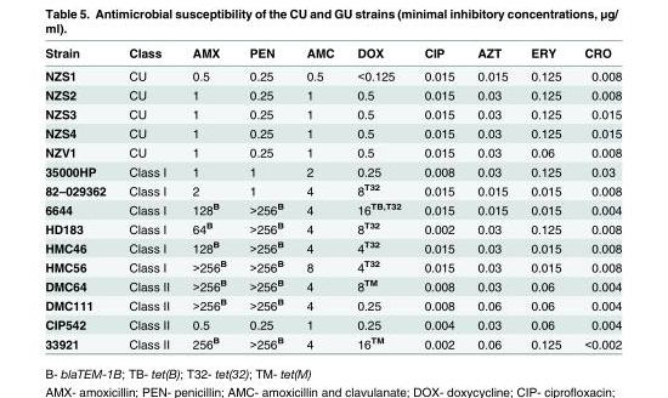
<table><thead><tr><td>Strain</td><td>Class</td><td>AMX</td><td>PEN</td><td>AMC</td><td>DOX</td><td>CIP</td><td>AZT</td><td>ERY</td><td>CRO</td></tr></thead><tbody><tr><td>NZS1</td><td>CU</td><td>0.5</td><td>0.25</td><td>0.5</td><td>&lt;0.125</td><td>0.015</td><td>0.015</td><td>0.125</td><td>0.008</td></tr><tr><td>NZS2</td><td>CU</td><td>1</td><td>0.25</td><td>1</td><td>0.5</td><td>0.015</td><td>0.03</td><td>0.125</td><td>0.008</td></tr><tr><td>NZS3</td><td>CU</td><td>1</td><td>0.25</td><td>1</td><td>0.5</td><td>0.015</td><td>0.03</td><td>0.125</td><td>0.015</td></tr><tr><td>NZS4</td><td>CU</td><td>1</td><td>0.25</td><td>1</td><td>0.5</td><td>0.015</td><td>0.03</td><td>0.125</td><td>0.015</td></tr><tr><td>NZV1</td><td>CU</td><td>1</td><td>0.25</td><td>1</td><td>0.5</td><td>0.015</td><td>0.03</td><td>0.06</td><td>0.008</td></tr><tr><td>35000HP</td><td>Class I</td><td>1</td><td>1</td><td>2</td><td>0.25</td><td>0.008</td><td>0.03</td><td>0.125</td><td>0.03</td></tr><tr><td>82–029362</td><td>Class I</td><td>2</td><td>1</td><td>4</td><td>8<sup>T32</sup></td><td>0.015</td><td>0.015</td><td>0.015</td><td>0.008</td></tr><tr><td>6644</td><td>Class I</td><td>128<sup>B</sup></td><td>&gt;256<sup>B</sup></td><td>4</td><td>16<sup>TB,T32</sup></td><td>0.015</td><td>0.015</td><td>0.015</td><td>0.004</td></tr><tr><td>HD183</td><td>Class I</td><td>64<sup>B</sup></td><td>&gt;256<sup>B</sup></td><td>4</td><td>8<sup>T32</sup></td><td>0.002</td><td>0.03</td><td>0.125</td><td>0.008</td></tr><tr><td>HMC46</td><td>Class I</td><td>128<sup>B</sup></td><td>&gt;256<sup>B</sup></td><td>4</td><td>4<sup>T32</sup></td><td>0.015</td><td>0.03</td><td>0.015</td><td>0.008</td></tr><tr><td>HMC56</td><td>Class I</td><td>&gt;256<sup>B</sup></td><td>&gt;256<sup>B</sup></td><td>8</td><td>4<sup>T32</sup></td><td>0.015</td><td>0.03</td><td>0.015</td><td>0.008</td></tr><tr><td>DMC64</td><td>Class II</td><td>&gt;256<sup>B</sup></td><td>&gt;256<sup>B</sup></td><td>4</td><td>8<sup>TM</sup></td><td>0.008</td><td>0.03</td><td>0.06</td><td>0.004</td></tr><tr><td>DMC111</td><td>Class II</td><td>&gt;256<sup>B</sup></td><td>&gt;256<sup>B</sup></td><td>4</td><td>0.25</td><td>0.008</td><td>0.06</td><td>0.06</td><td>0.004</td></tr><tr><td>CIP542</td><td>Class II</td><td>0.5</td><td>0.25</td><td>1</td><td>0.25</td><td>0.004</td><td>0.03</td><td>0.06</td><td>0.004</td></tr><tr><td>33921</td><td>Class II</td><td>256<sup>B</sup></td><td>&gt;256<sup>B</sup></td><td>4</td><td>16<sup>TM</sup></td><td>0.002</td><td>0.06</td><td>0.125</td><td>&lt;0.002</td></tr></tbody></table>